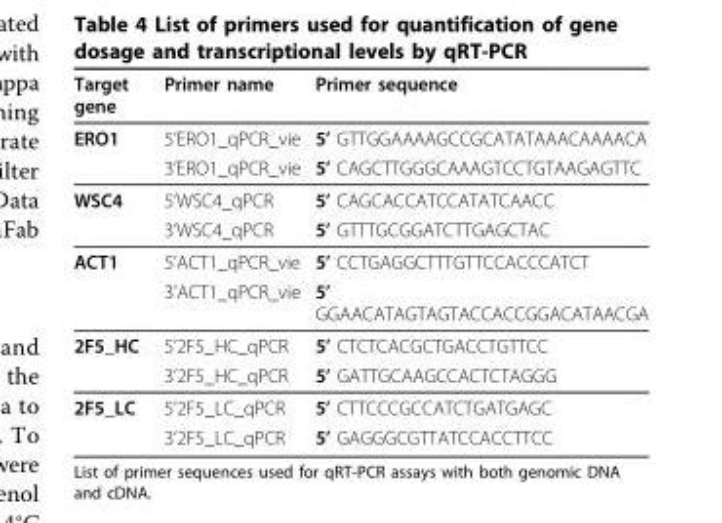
<table><thead><tr><td>Target gene</td><td>Primer name</td><td>Primer sequence</td></tr></thead><tbody><tr><td rowspan="2">ERO1</td><td>5’ERO1_qPCR_vie</td><td>5’ GTTGGAAAAGCCGCATATAAACAAAACA</td></tr><tr><td>3’ERO1_qPCR_vie</td><td>5’ CAGCTTGGGCAAAGTCCTGTAAGAGTTC</td></tr><tr><td rowspan="2">WSC4</td><td>5’WSC4_qPCR</td><td>5’ CAGCACCATCCATATCAACC</td></tr><tr><td>3’WSC4_qPCR</td><td>5’ GTTTGCGGATCTTGAGCTAC</td></tr><tr><td rowspan="2">ACT1</td><td>5’ACT1_qPCR_vie</td><td>5’ CCTGAGGCTTTGTTCCACCCATCT</td></tr><tr><td>3’ACT1_qPCR_vie</td><td>5’ GGAACATAGTAGTACCACCGGACATAACGA</td></tr><tr><td rowspan="2">2F5_HC</td><td>5’2F5_HC_qPCR</td><td>5’ CTCTCACGCTGACCTGTTCC</td></tr><tr><td>3’2F5_HC_qPCR</td><td>5’ GATTGCAAGCCACTCTAGGG</td></tr><tr><td rowspan="2">2F5_LC</td><td>5’2F5_LC_qPCR</td><td>5’ CTTCCCGCCATCTGATGAGC</td></tr><tr><td>3’2F5_LC_qPCR</td><td>5’ GAGGGCGTTATCCACCTTCC</td></tr></tbody></table>